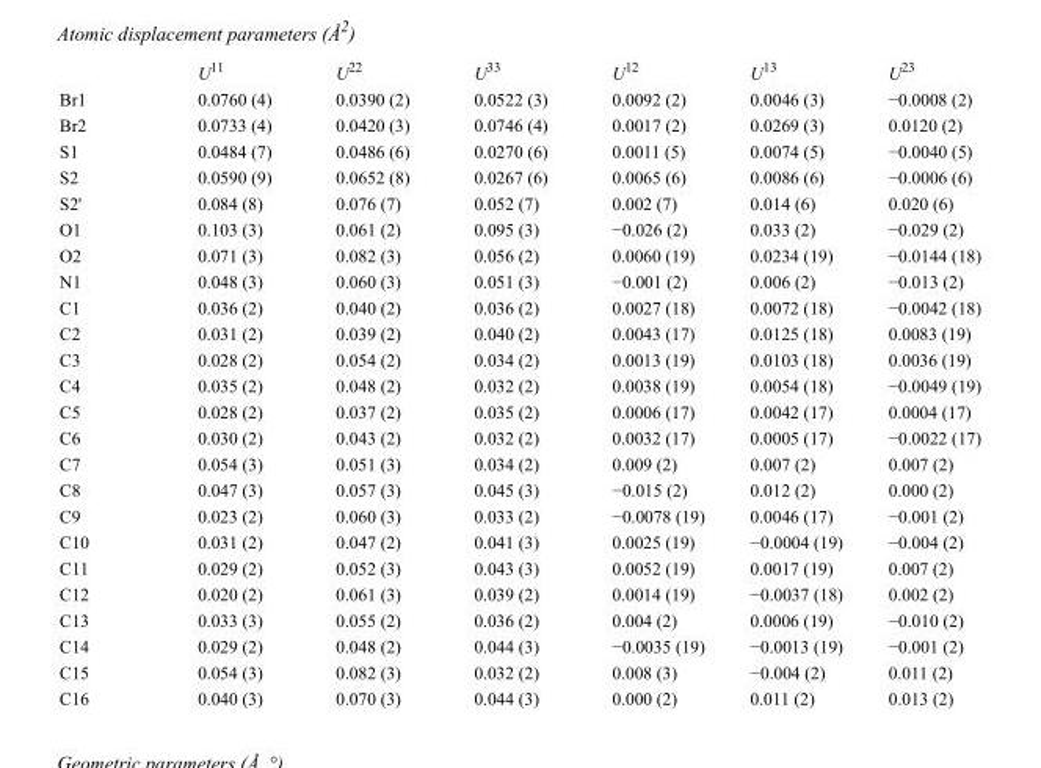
<table><thead><tr><td></td><td>U<sup>11</sup></td><td>U<sup>22</sup></td><td>U<sup>33</sup></td><td>U<sup>12</sup></td><td>U<sup>13</sup></td><td>U<sup>23</sup></td></tr></thead><tbody><tr><td>Br1</td><td>0.0760 (4)</td><td>0.0390 (2)</td><td>0.0522 (3)</td><td>0.0092 (2)</td><td>0.0046 (3)</td><td>−0.0008 (2)</td></tr><tr><td>Br2</td><td>0.0733 (4)</td><td>0.0420 (3)</td><td>0.0746 (4)</td><td>0.0017 (2)</td><td>0.0269 (3)</td><td>0.0120 (2)</td></tr><tr><td>S1</td><td>0.0484 (7)</td><td>0.0486 (6)</td><td>0.0270 (6)</td><td>0.0011 (5)</td><td>0.0074 (5)</td><td>−0.0040 (5)</td></tr><tr><td>S2</td><td>0.0590 (9)</td><td>0.0652 (8)</td><td>0.0267 (6)</td><td>0.0065 (6)</td><td>0.0086 (6)</td><td>−0.0006 (6)</td></tr><tr><td>S2&#x27;</td><td>0.084 (8)</td><td>0.076 (7)</td><td>0.052 (7)</td><td>0.002 (7)</td><td>0.014 (6)</td><td>0.020 (6)</td></tr><tr><td>O1</td><td>0.103 (3)</td><td>0.061 (2)</td><td>0.095 (3)</td><td>−0.026 (2)</td><td>0.033 (2)</td><td>−0.029 (2)</td></tr><tr><td>O2</td><td>0.071 (3)</td><td>0.082 (3)</td><td>0.056 (2)</td><td>0.0060 (19)</td><td>0.0234 (19)</td><td>−0.0144 (18)</td></tr><tr><td>N1</td><td>0.048 (3)</td><td>0.060 (3)</td><td>0.051 (3)</td><td>−0.001 (2)</td><td>0.006 (2)</td><td>−0.013 (2)</td></tr><tr><td>C1</td><td>0.036 (2)</td><td>0.040 (2)</td><td>0.036 (2)</td><td>0.0027 (18)</td><td>0.0072 (18)</td><td>−0.0042 (18)</td></tr><tr><td>C2</td><td>0.031 (2)</td><td>0.039 (2)</td><td>0.040 (2)</td><td>0.0043 (17)</td><td>0.0125 (18)</td><td>0.0083 (19)</td></tr><tr><td>C3</td><td>0.028 (2)</td><td>0.054 (2)</td><td>0.034 (2)</td><td>0.0013 (19)</td><td>0.0103 (18)</td><td>0.0036 (19)</td></tr><tr><td>C4</td><td>0.035 (2)</td><td>0.048 (2)</td><td>0.032 (2)</td><td>0.0038 (19)</td><td>0.0054 (18)</td><td>−0.0049 (19)</td></tr><tr><td>C5</td><td>0.028 (2)</td><td>0.037 (2)</td><td>0.035 (2)</td><td>0.0006 (17)</td><td>0.0042 (17)</td><td>0.0004 (17)</td></tr><tr><td>C6</td><td>0.030 (2)</td><td>0.043 (2)</td><td>0.032 (2)</td><td>0.0032 (17)</td><td>0.0005 (17)</td><td>−0.0022 (17)</td></tr><tr><td>C7</td><td>0.054 (3)</td><td>0.051 (3)</td><td>0.034 (2)</td><td>0.009 (2)</td><td>0.007 (2)</td><td>0.007 (2)</td></tr><tr><td>C8</td><td>0.047 (3)</td><td>0.057 (3)</td><td>0.045 (3)</td><td>−0.015 (2)</td><td>0.012 (2)</td><td>0.000 (2)</td></tr><tr><td>C9</td><td>0.023 (2)</td><td>0.060 (3)</td><td>0.033 (2)</td><td>−0.0078 (19)</td><td>0.0046 (17)</td><td>−0.001 (2)</td></tr><tr><td>C10</td><td>0.031 (2)</td><td>0.047 (2)</td><td>0.041 (3)</td><td>0.0025 (19)</td><td>−0.0004 (19)</td><td>−0.004 (2)</td></tr><tr><td>C11</td><td>0.029 (2)</td><td>0.052 (3)</td><td>0.043 (3)</td><td>0.0052 (19)</td><td>0.0017 (19)</td><td>0.007 (2)</td></tr><tr><td>C12</td><td>0.020 (2)</td><td>0.061 (3)</td><td>0.039 (2)</td><td>0.0014 (19)</td><td>−0.0037 (18)</td><td>0.002 (2)</td></tr><tr><td>C13</td><td>0.033 (3)</td><td>0.055 (2)</td><td>0.036 (2)</td><td>0.004 (2)</td><td>0.0006 (19)</td><td>−0.010 (2)</td></tr><tr><td>C14</td><td>0.029 (2)</td><td>0.048 (2)</td><td>0.044 (3)</td><td>−0.0035 (19)</td><td>−0.0013 (19)</td><td>−0.001 (2)</td></tr><tr><td>C15</td><td>0.054 (3)</td><td>0.082 (3)</td><td>0.032 (2)</td><td>0.008 (3)</td><td>−0.004 (2)</td><td>0.011 (2)</td></tr><tr><td>C16</td><td>0.040 (3)</td><td>0.070 (3)</td><td>0.044 (3)</td><td>0.000 (2)</td><td>0.011 (2)</td><td>0.013 (2)</td></tr></tbody></table>